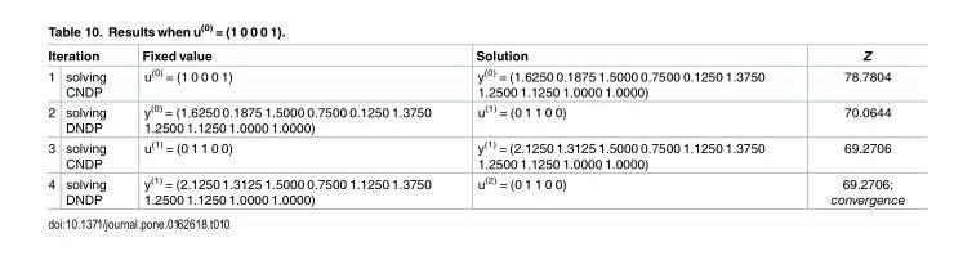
<table><thead><tr><td colspan="2">Iteration</td><td rowspan="2">Fixed value u<sup>(0)</sup> = (1 0 0 0 1)</td><td rowspan="2">Solution y<sup>(0)</sup> = (1.6250 0.1875 1.5000 0.7500 0.1250 1.3750 1.2500 1.1250 1.0000 1.0000)</td><td rowspan="2">Z 78.7804</td></tr><tr><td>1</td><td>solving CNDP</td></tr></thead><tbody><tr><td>2</td><td>solving DNDP</td><td>y<sup>(0)</sup> = (1.6250 0.1875 1.5000 0.7500 0.1250 1.3750 1.2500 1.1250 1.0000 1.0000)</td><td>u<sup>(1)</sup> = (0 1 1 0 0)</td><td>70.0644</td></tr><tr><td>3</td><td>solving CNDP</td><td>u<sup>(1)</sup> = (0 1 1 0 0)</td><td>y<sup>(1)</sup> = (2.1250 1.3125 1.5000 0.7500 1.1250 1.3750 1.2500 1.1250 1.0000 1.0000)</td><td>69.2706</td></tr><tr><td>4</td><td>solving DNDP</td><td>y<sup>(1)</sup> = (2.1250 1.3125 1.5000 0.7500 1.1250 1.3750 1.2500 1.1250 1.0000 1.0000)</td><td>u<sup>(2)</sup> = (0 1 1 0 0)</td><td>69.2706; convergence</td></tr></tbody></table>